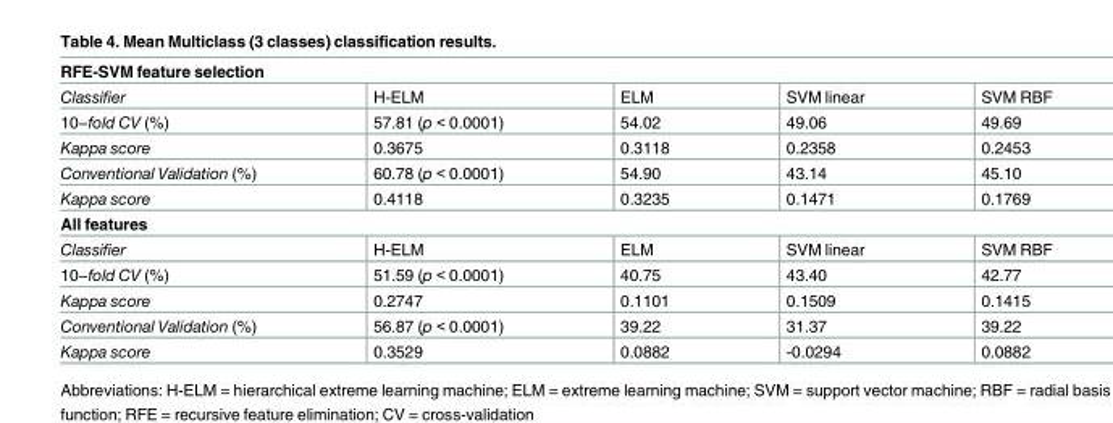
<table><tbody><tr><td colspan="5">RFE-SVM feature selection</td></tr><tr><td>Classifier</td><td>H-ELM</td><td>ELM</td><td>SVM linear</td><td>SVM RBF</td></tr><tr><td>10−fold CV (%)</td><td>57.81 (p &lt; 0.0001)</td><td>54.02</td><td>49.06</td><td>49.69</td></tr><tr><td>Kappa score</td><td>0.3675</td><td>0.3118</td><td>0.2358</td><td>0.2453</td></tr><tr><td>Conventional Validation (%)</td><td>60.78 (p &lt; 0.0001)</td><td>54.90</td><td>43.14</td><td>45.10</td></tr><tr><td>Kappa score</td><td>0.4118</td><td>0.3235</td><td>0.1471</td><td>0.1769</td></tr><tr><td colspan="5">All features</td></tr><tr><td>Classifier</td><td>H-ELM</td><td>ELM</td><td>SVM linear</td><td>SVM RBF</td></tr><tr><td>10−fold CV (%)</td><td>51.59 (p &lt; 0.0001)</td><td>40.75</td><td>43.40</td><td>42.77</td></tr><tr><td>Kappa score</td><td>0.2747</td><td>0.1101</td><td>0.1509</td><td>0.1415</td></tr><tr><td>Conventional Validation (%)</td><td>56.87 (p &lt; 0.0001)</td><td>39.22</td><td>31.37</td><td>39.22</td></tr><tr><td>Kappa score</td><td>0.3529</td><td>0.0882</td><td>-0.0294</td><td>0.0882</td></tr></tbody></table>